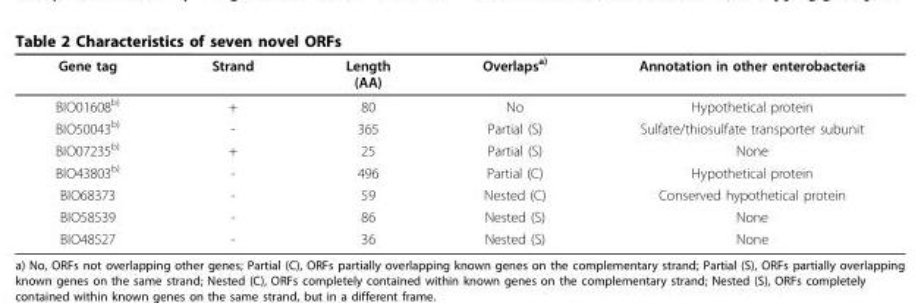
<table><thead><tr><td>Gene tag</td><td>Strand</td><td>Length (AA)</td><td>Overlaps<sup>a)</sup></td><td>Annotation in other enterobacteria</td></tr></thead><tbody><tr><td>BIO01608<sup>b)</sup></td><td>+</td><td>80</td><td>No</td><td>Hypothetical protein</td></tr><tr><td>BIO50043<sup>b)</sup></td><td>-</td><td>365</td><td>Partial (S)</td><td>Sulfate/thiosulfate transporter subunit</td></tr><tr><td>BIO07235<sup>b)</sup></td><td>+</td><td>25</td><td>Partial (S)</td><td>None</td></tr><tr><td>BIO43803<sup>b)</sup></td><td>-</td><td>496</td><td>Partial (C)</td><td>Hypothetical protein</td></tr><tr><td>BIO68373</td><td>-</td><td>59</td><td>Nested (C)</td><td>Conserved hypothetical protein</td></tr><tr><td>BIO58539</td><td>-</td><td>86</td><td>Nested (S)</td><td>None</td></tr><tr><td>BIO48527</td><td>-</td><td>36</td><td>Nested (S)</td><td>None</td></tr></tbody></table>